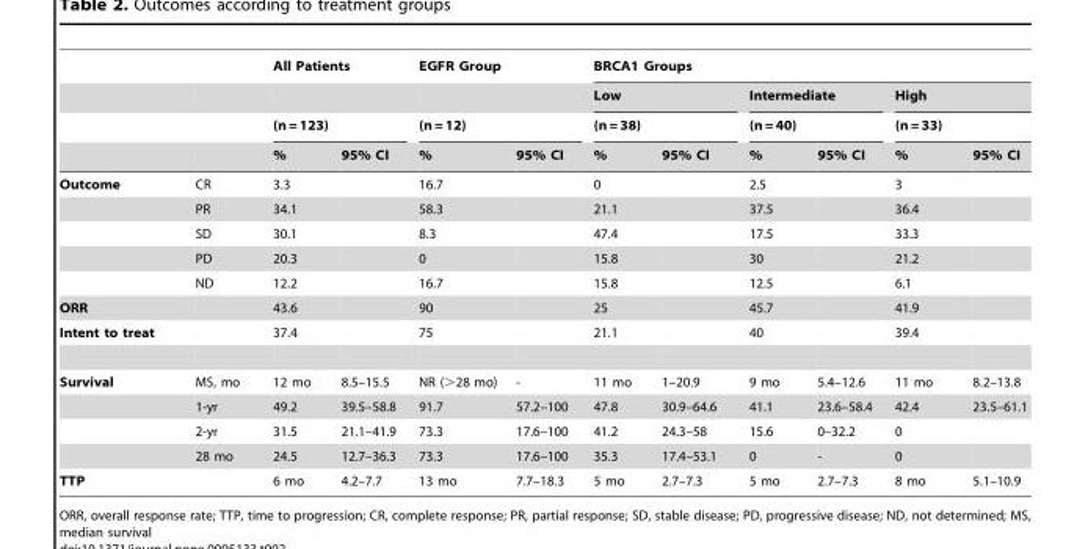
<table><thead><tr><td rowspan="4"></td><td rowspan="4"></td><td colspan="2">All Patients</td><td colspan="2">EGFR Group</td><td colspan="6">BRCA1 Groups</td></tr><tr><td></td><td></td><td></td><td></td><td rowspan="2" colspan="2">Low (n = 38)</td><td rowspan="2" colspan="2">Intermediate (n = 40)</td><td rowspan="2" colspan="2">High (n = 33)</td></tr><tr><td colspan="2">(n = 123)</td><td colspan="2">(n = 12)</td></tr><tr><td>%</td><td>95% CI</td><td>%</td><td>95% CI</td><td>%</td><td>95% CI</td><td>%</td><td>95% CI</td><td>%</td><td>95% CI</td></tr></thead><tbody><tr><td rowspan="5">Outcome</td><td>CR</td><td>3.3</td><td></td><td>16.7</td><td></td><td>0</td><td></td><td>2.5</td><td></td><td>3</td><td></td></tr><tr><td>PR</td><td>34.1</td><td></td><td>58.3</td><td></td><td>21.1</td><td></td><td>37.5</td><td></td><td>36.4</td><td></td></tr><tr><td>SD</td><td>30.1</td><td></td><td>8.3</td><td></td><td>47.4</td><td></td><td>17.5</td><td></td><td>33.3</td><td></td></tr><tr><td>PD</td><td>20.3</td><td></td><td>0</td><td></td><td>15.8</td><td></td><td>30</td><td></td><td>21.2</td><td></td></tr><tr><td>ND</td><td>12.2</td><td></td><td>16.7</td><td></td><td>15.8</td><td></td><td>12.5</td><td></td><td>6.1</td><td></td></tr><tr><td>ORR</td><td></td><td>43.6</td><td></td><td>90</td><td></td><td>25</td><td></td><td>45.7</td><td></td><td>41.9</td><td></td></tr><tr><td>Intent to treat</td><td></td><td>37.4</td><td></td><td>75</td><td></td><td>21.1</td><td></td><td>40</td><td></td><td>39.4</td><td></td></tr><tr><td rowspan="4">Survival</td><td>MS, mo</td><td>12 mo</td><td>8.5–15.5</td><td>NR (&gt;28 mo)</td><td>-</td><td>11 mo</td><td>1–20.9</td><td>9 mo</td><td>5.4–12.6</td><td>11 mo</td><td>8.2–13.8</td></tr><tr><td>1-yr</td><td>49.2</td><td>39.5–58.8</td><td>91.7</td><td>57.2–100</td><td>47.8</td><td>30.9–64.6</td><td>41.1</td><td>23.6–58.4</td><td>42.4</td><td>23.5–61.1</td></tr><tr><td>2-yr</td><td>31.5</td><td>21.1–41.9</td><td>73.3</td><td>17.6–100</td><td>41.2</td><td>24.3–58</td><td>15.6</td><td>0–32.2</td><td>0</td><td></td></tr><tr><td>28 mo</td><td>24.5</td><td>12.7–36.3</td><td>73.3</td><td>17.6–100</td><td>35.3</td><td>17.4–53.1</td><td>0</td><td>-</td><td>0</td><td></td></tr><tr><td>TTP</td><td></td><td>6 mo</td><td>4.2–7.7</td><td>13 mo</td><td>7.7–18.3</td><td>5 mo</td><td>2.7–7.3</td><td>5 mo</td><td>2.7–7.3</td><td>8 mo</td><td>5.1–10.9</td></tr></tbody></table>